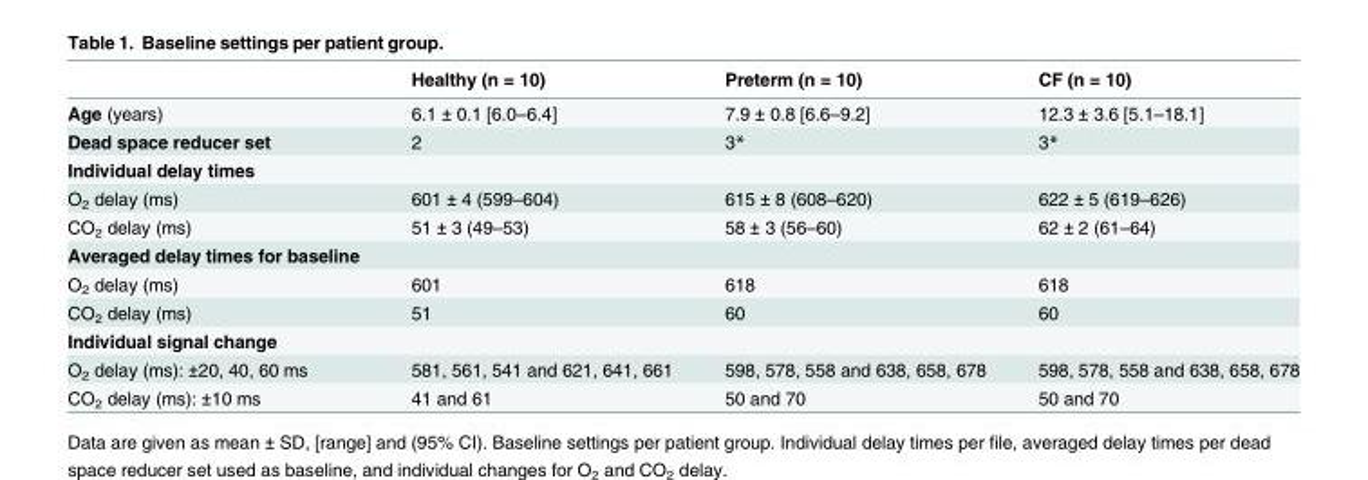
<table><thead><tr><td></td><td>Healthy (n = 10)</td><td>Preterm (n = 10)</td><td>CF (n = 10)</td></tr></thead><tbody><tr><td>Age (years)</td><td>6.1 ± 0.1 [6.0–6.4]</td><td>7.9 ± 0.8 [6.6–9.2]</td><td>12.3 ± 3.6 [5.1–18.1]</td></tr><tr><td>Dead space reducer set</td><td>2</td><td>3*</td><td>3*</td></tr><tr><td colspan="4">Individual delay times</td></tr><tr><td>O<sub>2</sub> delay (ms)</td><td>601 ± 4 (599–604)</td><td>615 ± 8 (608–620)</td><td>622 ± 5 (619–626)</td></tr><tr><td>CO<sub>2</sub> delay (ms)</td><td>51 ± 3 (49–53)</td><td>58 ± 3 (56–60)</td><td>62 ± 2 (61–64)</td></tr><tr><td colspan="4">Averaged delay times for baseline</td></tr><tr><td>O<sub>2</sub> delay (ms)</td><td>601</td><td>618</td><td>618</td></tr><tr><td>CO<sub>2</sub> delay (ms)</td><td>51</td><td>60</td><td>60</td></tr><tr><td colspan="4">Individual signal change</td></tr><tr><td>O<sub>2</sub> delay (ms): ±20, 40, 60 ms</td><td>581, 561, 541 and 621, 641, 661</td><td>598, 578, 558 and 638, 658, 678</td><td>598, 578, 558 and 638, 658, 678</td></tr><tr><td>CO<sub>2</sub> delay (ms): ±10 ms</td><td>41 and 61</td><td>50 and 70</td><td>50 and 70</td></tr></tbody></table>